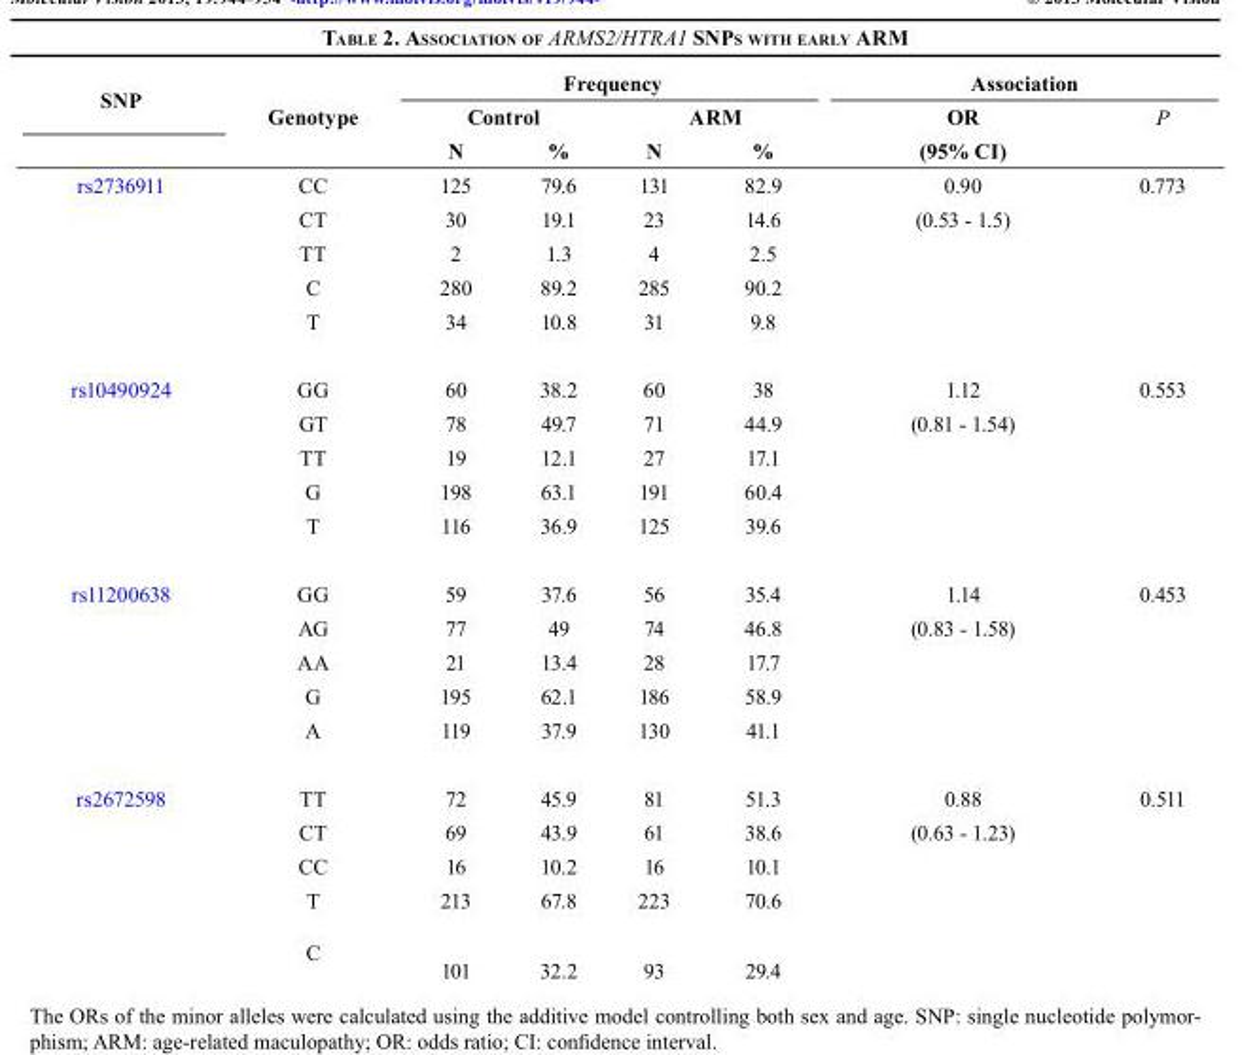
<table><thead><tr><td rowspan="3">SNP</td><td rowspan="3">Genotype</td><td colspan="4">Frequency</td><td colspan="2">Association</td></tr><tr><td colspan="2">Control</td><td colspan="2">ARM</td><td rowspan="2">OR (95% CI)</td><td rowspan="2">P</td></tr><tr><td>N</td><td>%</td><td>N</td><td>%</td></tr></thead><tbody><tr><td rowspan="5">rs2736911</td><td>CC</td><td>125</td><td>79.6</td><td>131</td><td>82.9</td><td>0.90</td><td>0.773</td></tr><tr><td>CT</td><td>30</td><td>19.1</td><td>23</td><td>14.6</td><td>(0.53 - 1.5)</td><td></td></tr><tr><td>TT</td><td>2</td><td>1.3</td><td>4</td><td>2.5</td><td></td><td></td></tr><tr><td>C</td><td>280</td><td>89.2</td><td>285</td><td>90.2</td><td></td><td></td></tr><tr><td>T</td><td>34</td><td>10.8</td><td>31</td><td>9.8</td><td></td><td></td></tr><tr><td rowspan="5">rs10490924</td><td>GG</td><td>60</td><td>38.2</td><td>60</td><td>38</td><td>1.12</td><td>0.553</td></tr><tr><td>GT</td><td>78</td><td>49.7</td><td>71</td><td>44.9</td><td>(0.81 - 1.54)</td><td></td></tr><tr><td>TT</td><td>19</td><td>12.1</td><td>27</td><td>17.1</td><td></td><td></td></tr><tr><td>G</td><td>198</td><td>63.1</td><td>191</td><td>60.4</td><td></td><td></td></tr><tr><td>T</td><td>116</td><td>36.9</td><td>125</td><td>39.6</td><td></td><td></td></tr><tr><td rowspan="5">rs11200638</td><td>GG</td><td>59</td><td>37.6</td><td>56</td><td>35.4</td><td>1.14</td><td>0.453</td></tr><tr><td>AG</td><td>77</td><td>49</td><td>74</td><td>46.8</td><td>(0.83 - 1.58)</td><td></td></tr><tr><td>AA</td><td>21</td><td>13.4</td><td>28</td><td>17.7</td><td></td><td></td></tr><tr><td>G</td><td>195</td><td>62.1</td><td>186</td><td>58.9</td><td></td><td></td></tr><tr><td>A</td><td>119</td><td>37.9</td><td>130</td><td>41.1</td><td></td><td></td></tr><tr><td rowspan="5">rs2672598</td><td>TT</td><td>72</td><td>45.9</td><td>81</td><td>51.3</td><td>0.88</td><td>0.511</td></tr><tr><td>CT</td><td>69</td><td>43.9</td><td>61</td><td>38.6</td><td>(0.63 - 1.23)</td><td></td></tr><tr><td>CC</td><td>16</td><td>10.2</td><td>16</td><td>10.1</td><td></td><td></td></tr><tr><td>T</td><td>213</td><td>67.8</td><td>223</td><td>70.6</td><td></td><td></td></tr><tr><td>C</td><td>101</td><td>32.2</td><td>93</td><td>29.4</td><td></td><td></td></tr></tbody></table>